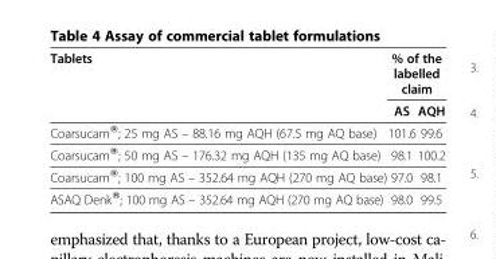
<table><thead><tr><td rowspan="2">Tablets</td><td colspan="2">% of the labelled claim</td></tr><tr><td>AS</td><td>AQH</td></tr></thead><tbody><tr><td>Coarsucam®; 25 mg AS – 88.16 mg AQH (67.5 mg AQ base)</td><td>101.6</td><td>99.6</td></tr><tr><td>Coarsucam®; 50 mg AS – 176.32 mg AQH (135 mg AQ base)</td><td>98.1</td><td>100.2</td></tr><tr><td>Coarsucam®; 100 mg AS – 352.64 mg AQH (270 mg AQ base)</td><td>97.0</td><td>98.1</td></tr><tr><td>ASAQ Denk®; 100 mg AS – 352.64 mg AQH (270 mg AQ base)</td><td>98.0</td><td>99.5</td></tr></tbody></table>